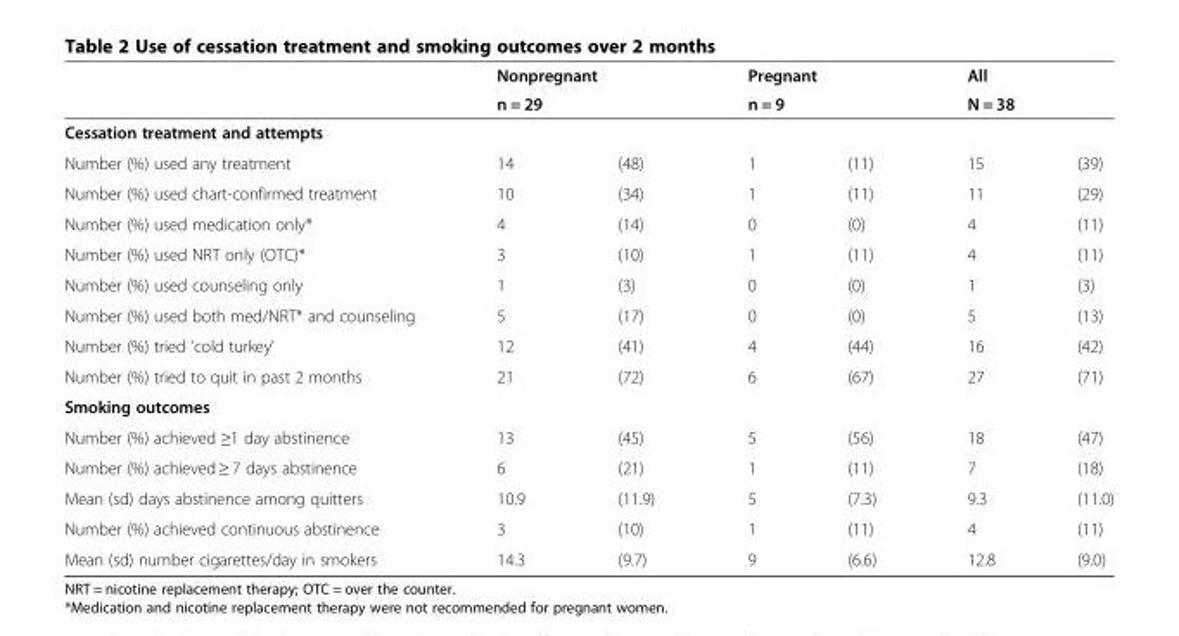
<table><thead><tr><td rowspan="4">Cessation treatment and attempts Number (%) used any treatment</td><td rowspan="2" colspan="2">Nonpregnant n = 29</td><td rowspan="2" colspan="2">Pregnant n = 9</td><td rowspan="2" colspan="2">All N = 38</td></tr><tr></tr><tr><td colspan="6"></td></tr><tr><td>14</td><td>(48)</td><td>1</td><td>(11)</td><td>15</td><td>(39)</td></tr></thead><tbody><tr><td>Number (%) used chart-confirmed treatment</td><td>10</td><td>(34)</td><td>1</td><td>(11)</td><td>11</td><td>(29)</td></tr><tr><td>Number (%) used medication only*</td><td>4</td><td>(14)</td><td>0</td><td>(0)</td><td>4</td><td>(11)</td></tr><tr><td>Number (%) used NRT only (OTC)*</td><td>3</td><td>(10)</td><td>1</td><td>(11)</td><td>4</td><td>(11)</td></tr><tr><td>Number (%) used counseling only</td><td>1</td><td>(3)</td><td>0</td><td>(0)</td><td>1</td><td>(3)</td></tr><tr><td>Number (%) used both med/NRT* and counseling</td><td>5</td><td>(17)</td><td>0</td><td>(0)</td><td>5</td><td>(13)</td></tr><tr><td>Number (%) tried &#x27;cold turkey&#x27;</td><td>12</td><td>(41)</td><td>4</td><td>(44)</td><td>16</td><td>(42)</td></tr><tr><td>Number (%) tried to quit in past 2 months</td><td>21</td><td>(72)</td><td>6</td><td>(67)</td><td>27</td><td>(71)</td></tr><tr><td colspan="7">Smoking outcomes</td></tr><tr><td>Number (%) achieved ≥1 day abstinence</td><td>13</td><td>(45)</td><td>5</td><td>(56)</td><td>18</td><td>(47)</td></tr><tr><td>Number (%) achieved ≥ 7 days abstinence</td><td>6</td><td>(21)</td><td>1</td><td>(11)</td><td>7</td><td>(18)</td></tr><tr><td>Mean (sd) days abstinence among quitters</td><td>10.9</td><td>(11.9)</td><td>5</td><td>(7.3)</td><td>9.3</td><td>(11.0)</td></tr><tr><td>Number (%) achieved continuous abstinence</td><td>3</td><td>(10)</td><td>1</td><td>(11)</td><td>4</td><td>(11)</td></tr><tr><td>Mean (sd) number cigarettes/day in smokers</td><td>14.3</td><td>(9.7)</td><td>9</td><td>(6.6)</td><td>12.8</td><td>(9.0)</td></tr></tbody></table>